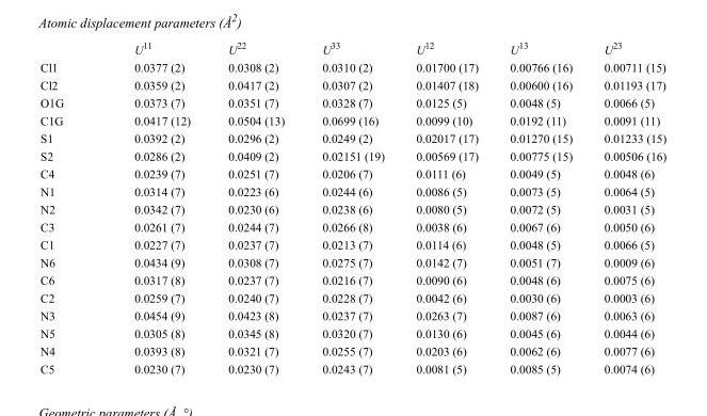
<table><thead><tr><td></td><td>U<sup>11</sup></td><td>U<sup>22</sup></td><td>U<sup>33</sup></td><td>U<sup>12</sup></td><td>U<sup>13</sup></td><td>U<sup>23</sup></td></tr></thead><tbody><tr><td>Cl1</td><td>0.0377 (2)</td><td>0.0308 (2)</td><td>0.0310 (2)</td><td>0.01700 (17)</td><td>0.00766 (16)</td><td>0.00711 (15)</td></tr><tr><td>Cl2</td><td>0.0359 (2)</td><td>0.0417 (2)</td><td>0.0307 (2)</td><td>0.01407 (18)</td><td>0.00600 (16)</td><td>0.01193 (17)</td></tr><tr><td>O1G</td><td>0.0373 (7)</td><td>0.0351 (7)</td><td>0.0328 (7)</td><td>0.0125 (5)</td><td>0.0048 (5)</td><td>0.0066 (5)</td></tr><tr><td>C1G</td><td>0.0417 (12)</td><td>0.0504 (13)</td><td>0.0699 (16)</td><td>0.0099 (10)</td><td>0.0192 (11)</td><td>0.0091 (11)</td></tr><tr><td>S1</td><td>0.0392 (2)</td><td>0.0296 (2)</td><td>0.0249 (2)</td><td>0.02017 (17)</td><td>0.01270 (15)</td><td>0.01233 (15)</td></tr><tr><td>S2</td><td>0.0286 (2)</td><td>0.0409 (2)</td><td>0.02151 (19)</td><td>0.00569 (17)</td><td>0.00775 (15)</td><td>0.00506 (16)</td></tr><tr><td>C4</td><td>0.0239 (7)</td><td>0.0251 (7)</td><td>0.0206 (7)</td><td>0.0111 (6)</td><td>0.0049 (5)</td><td>0.0048 (6)</td></tr><tr><td>N1</td><td>0.0314 (7)</td><td>0.0223 (6)</td><td>0.0244 (6)</td><td>0.0086 (5)</td><td>0.0073 (5)</td><td>0.0064 (5)</td></tr><tr><td>N2</td><td>0.0342 (7)</td><td>0.0230 (6)</td><td>0.0238 (6)</td><td>0.0080 (5)</td><td>0.0072 (5)</td><td>0.0031 (5)</td></tr><tr><td>C3</td><td>0.0261 (7)</td><td>0.0244 (7)</td><td>0.0266 (8)</td><td>0.0038 (6)</td><td>0.0067 (6)</td><td>0.0050 (6)</td></tr><tr><td>C1</td><td>0.0227 (7)</td><td>0.0237 (7)</td><td>0.0213 (7)</td><td>0.0114 (6)</td><td>0.0048 (5)</td><td>0.0066 (5)</td></tr><tr><td>N6</td><td>0.0434 (9)</td><td>0.0308 (7)</td><td>0.0275 (7)</td><td>0.0142 (7)</td><td>0.0051 (7)</td><td>0.0009 (6)</td></tr><tr><td>C6</td><td>0.0317 (8)</td><td>0.0237 (7)</td><td>0.0216 (7)</td><td>0.0090 (6)</td><td>0.0048 (6)</td><td>0.0075 (6)</td></tr><tr><td>C2</td><td>0.0259 (7)</td><td>0.0240 (7)</td><td>0.0228 (7)</td><td>0.0042 (6)</td><td>0.0030 (6)</td><td>0.0003 (6)</td></tr><tr><td>N3</td><td>0.0454 (9)</td><td>0.0423 (8)</td><td>0.0237 (7)</td><td>0.0263 (7)</td><td>0.0087 (6)</td><td>0.0063 (6)</td></tr><tr><td>N5</td><td>0.0305 (8)</td><td>0.0345 (8)</td><td>0.0320 (7)</td><td>0.0130 (6)</td><td>0.0045 (6)</td><td>0.0044 (6)</td></tr><tr><td>N4</td><td>0.0393 (8)</td><td>0.0321 (7)</td><td>0.0255 (7)</td><td>0.0203 (6)</td><td>0.0062 (6)</td><td>0.0077 (6)</td></tr><tr><td>C5</td><td>0.0230 (7)</td><td>0.0230 (7)</td><td>0.0243 (7)</td><td>0.0081 (5)</td><td>0.0085 (5)</td><td>0.0074 (6)</td></tr></tbody></table>